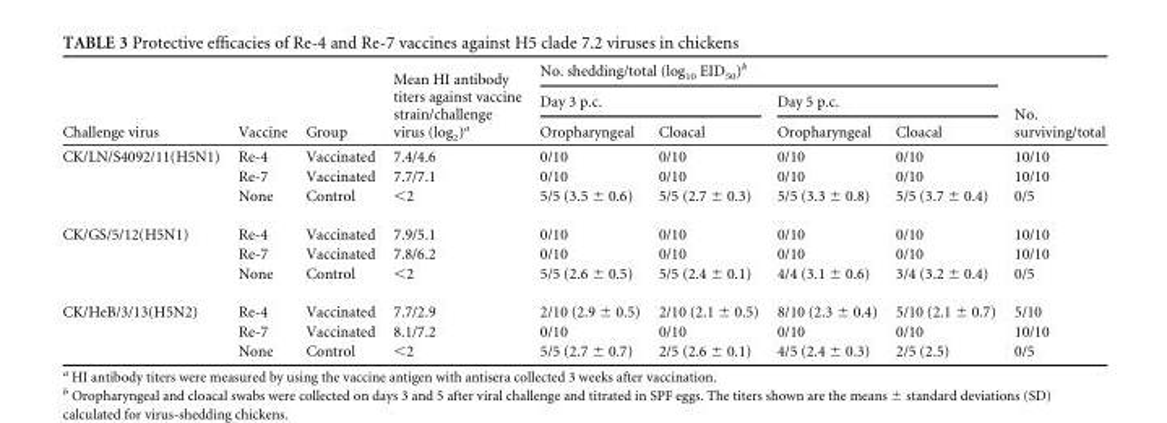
<table><thead><tr><td rowspan="3">Challenge virus</td><td rowspan="3">Vaccine</td><td rowspan="3">Group</td><td rowspan="3">Mean HI antibody titers against vaccine strain/challenge virus (log<sub>2</sub>)<sup>a</sup></td><td colspan="4">No. shedding/total (log<sub>10</sub> EID<sub>50</sub>)<sup>b</sup></td><td rowspan="3">No. surviving/total</td></tr><tr><td colspan="2">Day 3 p.c.</td><td colspan="2">Day 5 p.c.</td></tr><tr><td>Oropharyngeal</td><td>Cloacal</td><td>Oropharyngeal</td><td>Cloacal</td></tr></thead><tbody><tr><td rowspan="3">CK/LN/S4092/11(H5N1)</td><td>Re-4</td><td>Vaccinated</td><td>7.4/4.6</td><td>0/10</td><td>0/10</td><td>0/10</td><td>0/10</td><td>10/10</td></tr><tr><td>Re-7</td><td>Vaccinated</td><td>7.7/7.1</td><td>0/10</td><td>0/10</td><td>0/10</td><td>0/10</td><td>10/10</td></tr><tr><td>None</td><td>Control</td><td>&lt;2</td><td>5/5 (3.5 ± 0.6)</td><td>5/5 (2.7 ± 0.3)</td><td>5/5 (3.3 ± 0.8)</td><td>5/5 (3.7 ± 0.4)</td><td>0/5</td></tr><tr><td rowspan="3">CK/GS/5/12(H5N1)</td><td>Re-4</td><td>Vaccinated</td><td>7.9/5.1</td><td>0/10</td><td>0/10</td><td>0/10</td><td>0/10</td><td>10/10</td></tr><tr><td>Re-7</td><td>Vaccinated</td><td>7.8/6.2</td><td>0/10</td><td>0/10</td><td>0/10</td><td>0/10</td><td>10/10</td></tr><tr><td>None</td><td>Control</td><td>&lt;2</td><td>5/5 (2.6 ± 0.5)</td><td>5/5 (2.4 ± 0.1)</td><td>4/4 (3.1 ± 0.6)</td><td>3/4 (3.2 ± 0.4)</td><td>0/5</td></tr><tr><td rowspan="3">CK/HeB/3/13(H5N2)</td><td>Re-4</td><td>Vaccinated</td><td>7.7/2.9</td><td>2/10 (2.9 ± 0.5)</td><td>2/10 (2.1 ± 0.5)</td><td>8/10 (2.3 ± 0.4)</td><td>5/10 (2.1 ± 0.7)</td><td>5/10</td></tr><tr><td>Re-7</td><td>Vaccinated</td><td>8.1/7.2</td><td>0/10</td><td>0/10</td><td>0/10</td><td>0/10</td><td>10/10</td></tr><tr><td>None</td><td>Control</td><td>&lt;2</td><td>5/5 (2.7 ± 0.7)</td><td>2/5 (2.6 ± 0.1)</td><td>4/5 (2.4 ± 0.3)</td><td>2/5 (2.5)</td><td>0/5</td></tr></tbody></table>